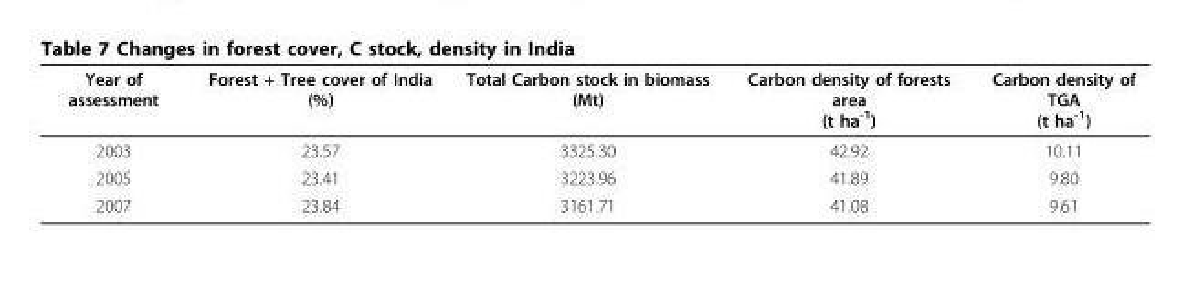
<table><thead><tr><td>Year of assessment</td><td>Forest + Tree cover of India (%)</td><td>Total Carbon stock in biomass (Mt)</td><td>Carbon density of forests area (t ha<sup>-1</sup>)</td><td>Carbon density of TGA (t ha<sup>-1</sup>)</td></tr></thead><tbody><tr><td>2003</td><td>23.57</td><td>3325.30</td><td>42.92</td><td>10.11</td></tr><tr><td>2005</td><td>23.41</td><td>3223.96</td><td>41.89</td><td>9.80</td></tr><tr><td>2007</td><td>23.84</td><td>3161.71</td><td>41.08</td><td>9.61</td></tr></tbody></table>